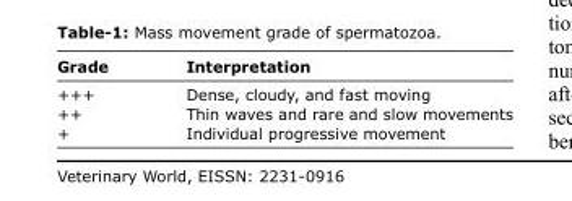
<table><thead><tr><td>Grade</td><td>Interpretation</td></tr></thead><tbody><tr><td>+++</td><td>Dense, cloudy, and fast moving</td></tr><tr><td>++</td><td>Thin waves and rare and slow movements</td></tr><tr><td>+</td><td>Individual progressive movement</td></tr></tbody></table>